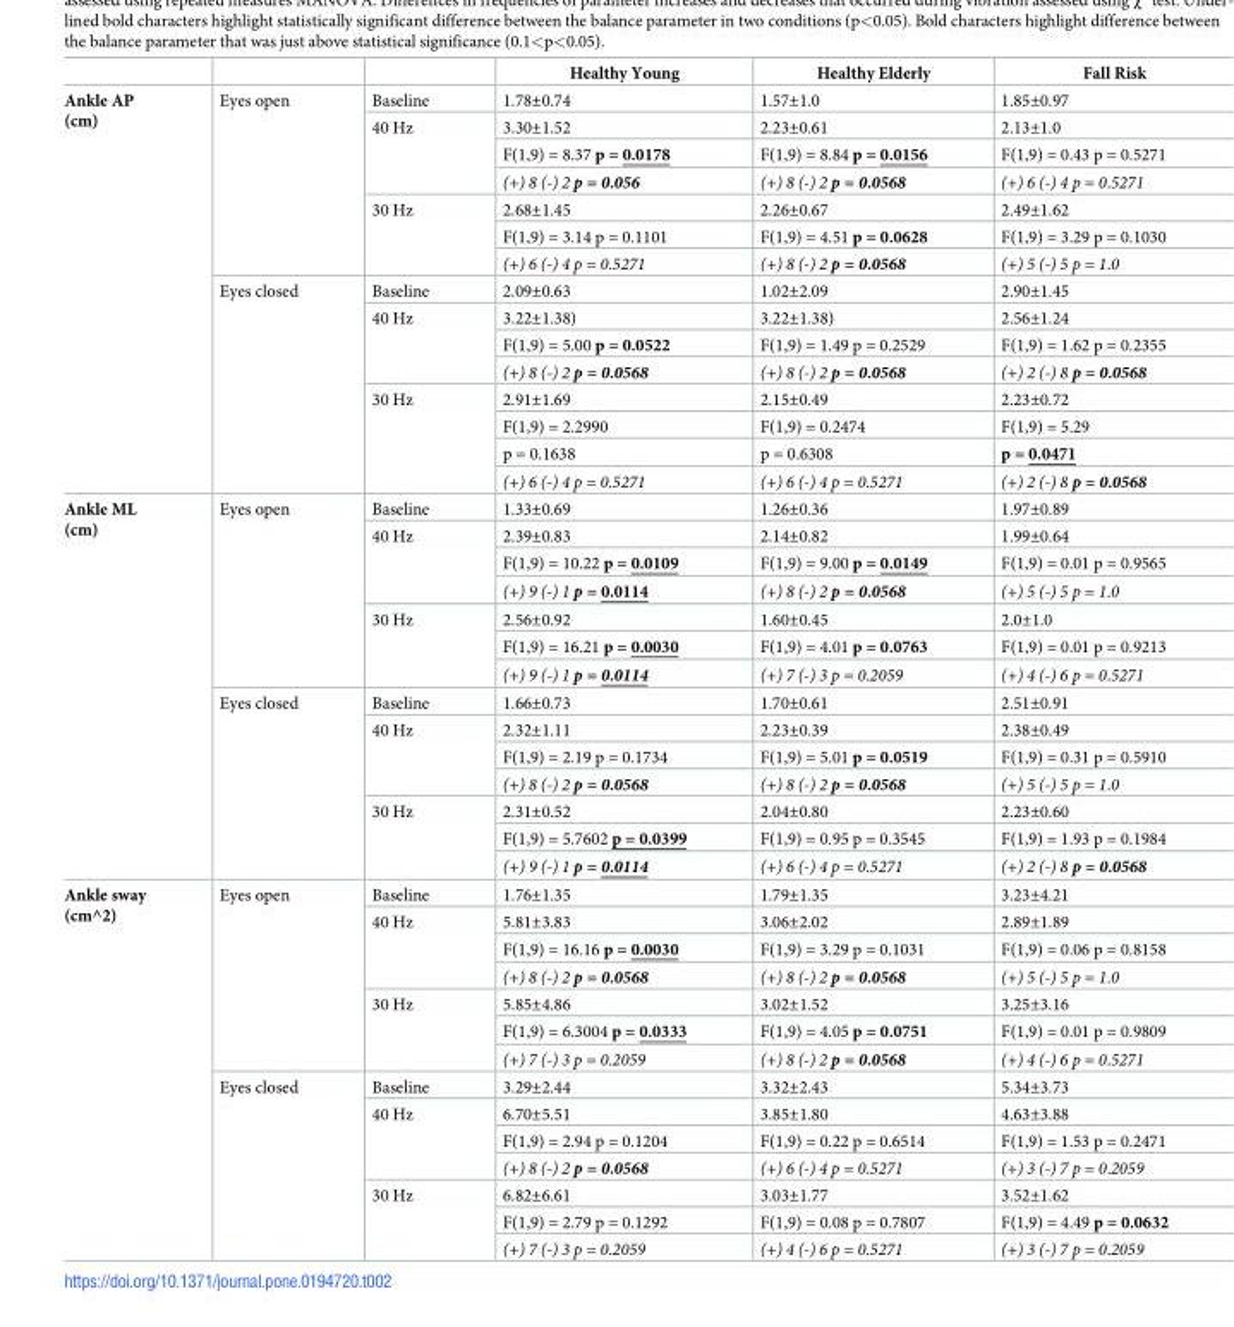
<table><thead><tr><td></td><td></td><td></td><td>Healthy Young</td><td>Healthy Elderly</td><td>Fall Risk</td></tr></thead><tbody><tr><td rowspan="15">Ankle AP (cm)</td><td rowspan="7">Eyes open</td><td>Baseline</td><td>1.78±0.74</td><td>1.57±1.0</td><td>1.85±0.97</td></tr><tr><td rowspan="3">40 Hz</td><td>3.30±1.52</td><td>2.23±0.61</td><td>2.13±1.0</td></tr><tr><td>F(1,9) = 8.37 p = 0.0178</td><td>F(1,9) = 8.84 p = 0.0156</td><td>F(1,9) = 0.43 p = 0.5271</td></tr><tr><td>(+) 8 (-) 2 p = 0.056</td><td>(+) 8 (-) 2 p = 0.0568</td><td>(+) 6 (-) 4 p = 0.5271</td></tr><tr><td rowspan="3">30 Hz</td><td>2.68±1.45</td><td>2.26±0.67</td><td>2.49±1.62</td></tr><tr><td>F(1,9) = 3.14 p = 0.1101</td><td>F(1,9) = 4.51 p = 0.0628</td><td>F(1,9) = 3.29 p = 0.1030</td></tr><tr><td>(+) 6 (-) 4 p = 0.5271</td><td>(+) 8 (-) 2 p = 0.0568</td><td>(+) 5 (-) 5 p = 1.0</td></tr><tr><td rowspan="8">Eyes closed</td><td>Baseline</td><td>2.09±0.63</td><td>1.02±2.09</td><td>2.90±1.45</td></tr><tr><td rowspan="3">40 Hz</td><td>3.22±1.38)</td><td>3.22±1.38)</td><td>2.56±1.24</td></tr><tr><td>F(1,9) = 5.00 p = 0.0522</td><td>F(1,9) = 1.49 p = 0.2529</td><td>F(1,9) = 1.62 p = 0.2355</td></tr><tr><td>(+) 8 (-) 2 p = 0.0568</td><td>(+) 8 (-) 2 p = 0.0568</td><td>(+) 2 (-) 8 p = 0.0568</td></tr><tr><td rowspan="4">30 Hz</td><td>2.91±1.69</td><td>2.15±0.49</td><td>2.23±0.72</td></tr><tr><td>F(1,9) = 2.2990</td><td>F(1,9) = 0.2474</td><td>F(1,9) = 5.29</td></tr><tr><td>p = 0.1638</td><td>p = 0.6308</td><td>p = 0.0471</td></tr><tr><td>(+) 6 (-) 4 p = 0.5271</td><td>(+) 6 (-) 4 p = 0.5271</td><td>(+) 2 (-) 8 p = 0.0568</td></tr><tr><td rowspan="14">Ankle ML (cm)</td><td rowspan="7">Eyes open</td><td>Baseline</td><td>1.33±0.69</td><td>1.26±0.36</td><td>1.97±0.89</td></tr><tr><td rowspan="3">40 Hz</td><td>2.39±0.83</td><td>2.14±0.82</td><td>1.99±0.64</td></tr><tr><td>F(1,9) = 10.22 p = 0.0109</td><td>F(1,9) = 9.00 p = 0.0149</td><td>F(1,9) = 0.01 p = 0.9565</td></tr><tr><td>(+) 9 (-) 1 p = 0.0114</td><td>(+) 8 (-) 2 p = 0.0568</td><td>(+) 5 (-) 5 p = 1.0</td></tr><tr><td rowspan="3">30 Hz</td><td>2.56±0.92</td><td>1.60±0.45</td><td>2.0±1.0</td></tr><tr><td>F(1,9) = 16.21 p = 0.0030</td><td>F(1,9) = 4.01 p = 0.0763</td><td>F(1,9) = 0.01 p = 0.9213</td></tr><tr><td>(+) 9 (-) 1 p = 0.0114</td><td>(+) 7 (-) 3 p = 0.2059</td><td>(+) 4 (-) 6 p = 0.5271</td></tr><tr><td rowspan="7">Eyes closed</td><td>Baseline</td><td>1.66±0.73</td><td>1.70±0.61</td><td>2.51±0.91</td></tr><tr><td rowspan="3">40 Hz</td><td>2.32±1.11</td><td>2.23±0.39</td><td>2.38±0.49</td></tr><tr><td>F(1,9) = 2.19 p = 0.1734</td><td>F(1,9) = 5.01 p = 0.0519</td><td>F(1,9) = 0.31 p = 0.5910</td></tr><tr><td>(+) 8 (-) 2 p = 0.0568</td><td>(+) 8 (-) 2 p = 0.0568</td><td>(+) 5 (-) 5 p = 1.0</td></tr><tr><td rowspan="3">30 Hz</td><td>2.31±0.52</td><td>2.04±0.80</td><td>2.23±0.60</td></tr><tr><td>F(1,9) = 5.7602 p = 0.0399</td><td>F(1,9) = 0.95 p = 0.3545</td><td>F(1,9) = 1.93 p = 0.1984</td></tr><tr><td>(+) 9 (-) 1 p = 0.0114</td><td>(+) 6 (-) 4 p = 0.5271</td><td>(+) 2 (-) 8 p = 0.0568</td></tr><tr><td rowspan="14">Ankle sway (cm^2)</td><td rowspan="7">Eyes open</td><td>Baseline</td><td>1.76±1.35</td><td>1.79±1.35</td><td>3.23±4.21</td></tr><tr><td rowspan="3">40 Hz</td><td>5.81±3.83</td><td>3.06±2.02</td><td>2.89±1.89</td></tr><tr><td>F(1,9) = 16.16 p = 0.0030</td><td>F(1,9) = 3.29 p = 0.1031</td><td>F(1,9) = 0.06 p = 0.8158</td></tr><tr><td>(+) 8 (-) 2 p = 0.0568</td><td>(+) 8 (-) 2 p = 0.0568</td><td>(+) 5 (-) 5 p = 1.0</td></tr><tr><td rowspan="3">30 Hz</td><td>5.85±4.86</td><td>3.02±1.52</td><td>3.25±3.16</td></tr><tr><td>F(1,9) = 6.3004 p = 0.0333</td><td>F(1,9) = 4.05 p = 0.0751</td><td>F(1,9) = 0.01 p = 0.9809</td></tr><tr><td>(+) 7 (-) 3 p = 0.2059</td><td>(+) 8 (-) 2 p = 0.0568</td><td>(+) 4 (-) 6 p = 0.5271</td></tr><tr><td rowspan="7">Eyes closed</td><td>Baseline</td><td>3.29±2.44</td><td>3.32±2.43</td><td>5.34±3.73</td></tr><tr><td rowspan="3">40 Hz</td><td>6.70±5.51</td><td>3.85±1.80</td><td>4.63±3.88</td></tr><tr><td>F(1,9) = 2.94 p = 0.1204</td><td>F(1,9) = 0.22 p = 0.6514</td><td>F(1,9) = 1.53 p = 0.2471</td></tr><tr><td>(+) 8 (-) 2 p = 0.0568</td><td>(+) 6 (-) 4 p = 0.5271</td><td>(+) 3 (-) 7 p = 0.2059</td></tr><tr><td rowspan="3">30 Hz</td><td>6.82±6.61</td><td>3.03±1.77</td><td>3.52±1.62</td></tr><tr><td>F(1,9) = 2.79 p = 0.1292</td><td>F(1,9) = 0.08 p = 0.7807</td><td>F(1,9) = 4.49 p = 0.0632</td></tr><tr><td>(+) 7 (-) 3 p = 0.2059</td><td>(+) 4 (-) 6 p = 0.5271</td><td>(+) 3 (-) 7 p = 0.2059</td></tr></tbody></table>